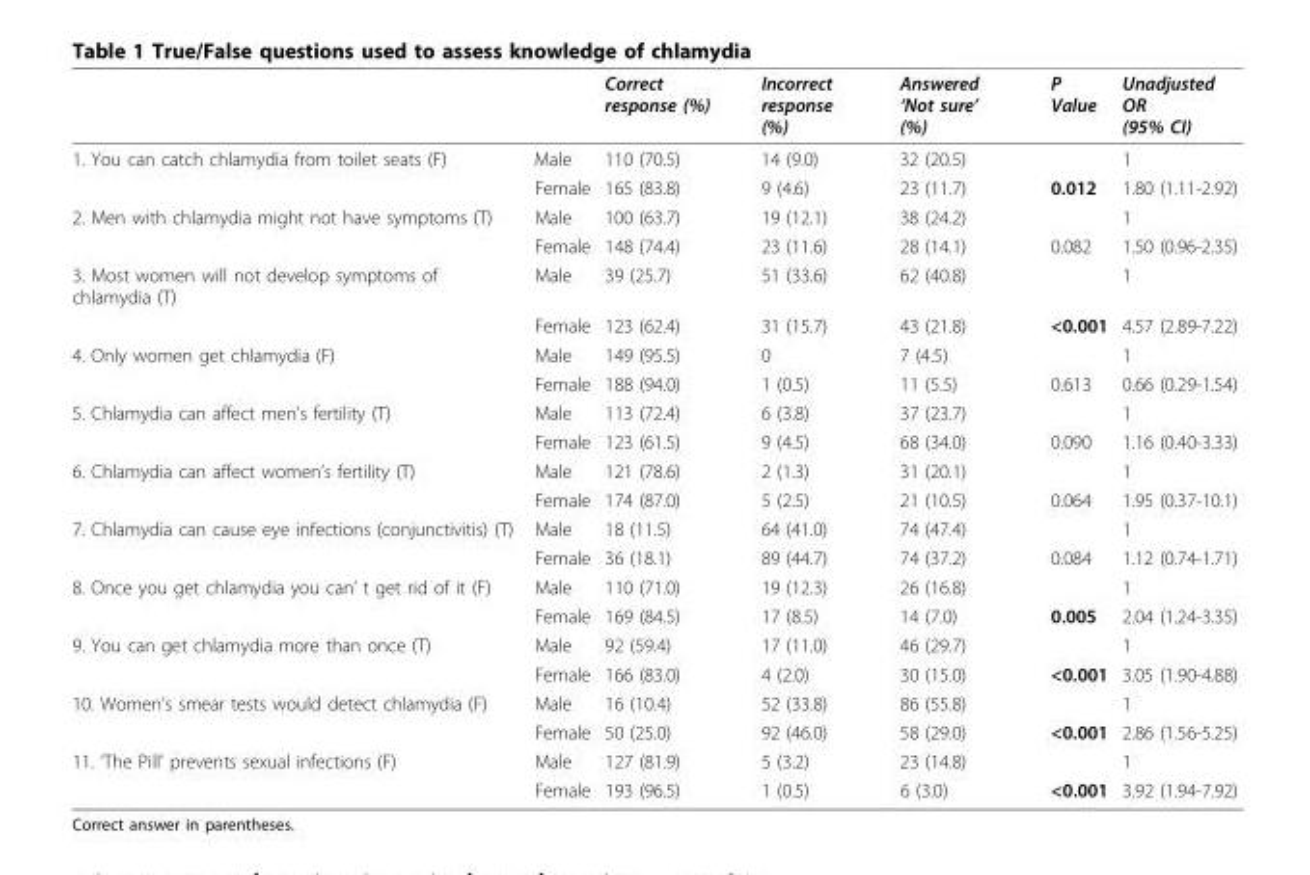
<table><thead><tr><td></td><td></td><td>Correct response (%)</td><td>Incorrect response (%)</td><td>Answered ‘Not sure’ (%)</td><td>P Value</td><td>Unadjusted OR (95% CI)</td></tr></thead><tbody><tr><td rowspan="2">1. You can catch chlamydia from toilet seats (F)</td><td>Male</td><td>110 (70.5)</td><td>14 (9.0)</td><td>32 (20.5)</td><td></td><td>1</td></tr><tr><td>Female</td><td>165 (83.8)</td><td>9 (4.6)</td><td>23 (11.7)</td><td>0.012</td><td>1.80 (1.11-2.92)</td></tr><tr><td rowspan="2">2. Men with chlamydia might not have symptoms (T)</td><td>Male</td><td>100 (63.7)</td><td>19 (12.1)</td><td>38 (24.2)</td><td></td><td>1</td></tr><tr><td>Female</td><td>148 (74.4)</td><td>23 (11.6)</td><td>28 (14.1)</td><td>0.082</td><td>1.50 (0.96-2.35)</td></tr><tr><td rowspan="2">3. Most women will not develop symptoms of chlamydia (T)</td><td>Male</td><td>39 (25.7)</td><td>51 (33.6)</td><td>62 (40.8)</td><td></td><td>1</td></tr><tr><td>Female</td><td>123 (62.4)</td><td>31 (15.7)</td><td>43 (21.8)</td><td>&lt;0.001</td><td>4.57 (2.89-7.22)</td></tr><tr><td rowspan="2">4. Only women get chlamydia (F)</td><td>Male</td><td>149 (95.5)</td><td>0</td><td>7 (4.5)</td><td></td><td>1</td></tr><tr><td>Female</td><td>188 (94.0)</td><td>1 (0.5)</td><td>11 (5.5)</td><td>0.613</td><td>0.66 (0.29-1.54)</td></tr><tr><td rowspan="2">5. Chlamydia can affect men’s fertility (T)</td><td>Male</td><td>113 (72.4)</td><td>6 (3.8)</td><td>37 (23.7)</td><td></td><td>1</td></tr><tr><td>Female</td><td>123 (61.5)</td><td>9 (4.5)</td><td>68 (34.0)</td><td>0.090</td><td>1.16 (0.40-3.33)</td></tr><tr><td rowspan="2">6. Chlamydia can affect women’s fertility (T)</td><td>Male</td><td>121 (78.6)</td><td>2 (1.3)</td><td>31 (20.1)</td><td></td><td>1</td></tr><tr><td>Female</td><td>174 (87.0)</td><td>5 (2.5)</td><td>21 (10.5)</td><td>0.064</td><td>1.95 (0.37-10.1)</td></tr><tr><td rowspan="2">7. Chlamydia can cause eye infections (conjunctivitis) (T)</td><td>Male</td><td>18 (11.5)</td><td>64 (41.0)</td><td>74 (47.4)</td><td></td><td>1</td></tr><tr><td>Female</td><td>36 (18.1)</td><td>89 (44.7)</td><td>74 (37.2)</td><td>0.084</td><td>1.12 (0.74-1.71)</td></tr><tr><td rowspan="2">8. Once you get chlamydia you can’ t get rid of it (F)</td><td>Male</td><td>110 (71.0)</td><td>19 (12.3)</td><td>26 (16.8)</td><td></td><td>1</td></tr><tr><td>Female</td><td>169 (84.5)</td><td>17 (8.5)</td><td>14 (7.0)</td><td>0.005</td><td>2.04 (1.24-3.35)</td></tr><tr><td rowspan="2">9. You can get chlamydia more than once (T)</td><td>Male</td><td>92 (59.4)</td><td>17 (11.0)</td><td>46 (29.7)</td><td></td><td>1</td></tr><tr><td>Female</td><td>166 (83.0)</td><td>4 (2.0)</td><td>30 (15.0)</td><td>&lt;0.001</td><td>3.05 (1.90-4.88)</td></tr><tr><td rowspan="2">10. Women’s smear tests would detect chlamydia (F)</td><td>Male</td><td>16 (10.4)</td><td>52 (33.8)</td><td>86 (55.8)</td><td></td><td>1</td></tr><tr><td>Female</td><td>50 (25.0)</td><td>92 (46.0)</td><td>58 (29.0)</td><td>&lt;0.001</td><td>2.86 (1.56-5.25)</td></tr><tr><td rowspan="2">11. ‘The Pill’ prevents sexual infections (F)</td><td>Male</td><td>127 (81.9)</td><td>5 (3.2)</td><td>23 (14.8)</td><td></td><td>1</td></tr><tr><td>Female</td><td>193 (96.5)</td><td>1 (0.5)</td><td>6 (3.0)</td><td>&lt;0.001</td><td>3.92 (1.94-7.92)</td></tr></tbody></table>